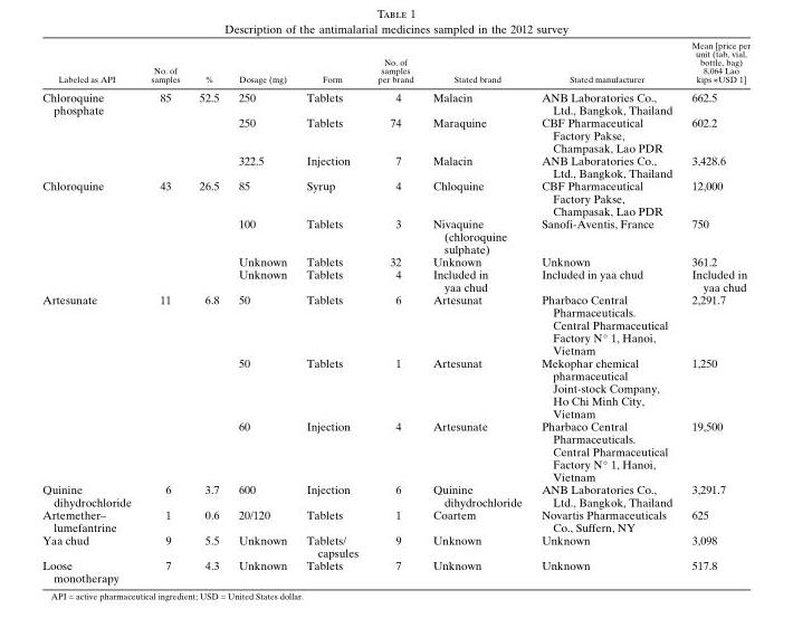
<table><thead><tr><td>Labeled as API</td><td>No. of samples</td><td>%</td><td>Dosage (mg)</td><td>Form</td><td>No. of samples per brand</td><td>Stated brand</td><td>Stated manufacturer</td><td>Mean [price per unit (tab, vial, bottle, bag) 8,064 Lao kips ≈USD 1]</td></tr></thead><tbody><tr><td rowspan="3">Chloroquine phosphate</td><td rowspan="3">85</td><td rowspan="3">52.5</td><td>250</td><td>Tablets</td><td>4</td><td>Malacin</td><td>ANB Laboratories Co., Ltd., Bangkok, Thailand</td><td>662.5</td></tr><tr><td>250</td><td>Tablets</td><td>74</td><td>Maraquine</td><td>CBF Pharmaceutical Factory Pakse, Champasak, Lao PDR</td><td>602.2</td></tr><tr><td>322.5</td><td>Injection</td><td>7</td><td>Malacin</td><td>ANB Laboratories Co., Ltd., Bangkok, Thailand</td><td>3,428.6</td></tr><tr><td rowspan="4">Chloroquine</td><td rowspan="4">43</td><td rowspan="4">26.5</td><td>85</td><td>Syrup</td><td>4</td><td>Chloquine</td><td>CBF Pharmaceutical Factory Pakse, Champasak, Lao PDR</td><td>12,000</td></tr><tr><td>100</td><td>Tablets</td><td>3</td><td>Nivaquine (chloroquine sulphate)</td><td>Sanofi-Aventis, France</td><td>750</td></tr><tr><td>Unknown</td><td>Tablets</td><td>32</td><td>Unknown</td><td>Unknown</td><td>361.2</td></tr><tr><td>Unknown</td><td>Tablets</td><td>4</td><td>Included in yaa chud</td><td>Included in yaa chud</td><td>Included in yaa chud</td></tr><tr><td rowspan="3">Artesunate</td><td rowspan="3">11</td><td rowspan="3">6.8</td><td>50</td><td>Tablets</td><td>6</td><td>Artesunat</td><td>Pharbaco Central Pharmaceuticals. Central Pharmaceutical Factory N° 1, Hanoi, Vietnam</td><td>2,291.7</td></tr><tr><td>50</td><td>Tablets</td><td>1</td><td>Artesunat</td><td>Mekophar chemical pharmaceutical Joint-stock Company, Ho Chi Minh City, Vietnam</td><td>1,250</td></tr><tr><td>60</td><td>Injection</td><td>4</td><td>Artesunate</td><td>Pharbaco Central Pharmaceuticals. Central Pharmaceutical Factory N° 1, Hanoi, Vietnam</td><td>19,500</td></tr><tr><td>Quinine dihydrochloride</td><td>6</td><td>3.7</td><td>600</td><td>Injection</td><td>6</td><td>Quinine dihydrochloride</td><td>ANB Laboratories Co., Ltd., Bangkok, Thailand</td><td>3,291.7</td></tr><tr><td>Artemether– lumefantrine</td><td>1</td><td>0.6</td><td>20/120</td><td>Tablets</td><td>1</td><td>Coartem</td><td>Novartis Pharmaceuticals Co., Suffern, NY</td><td>625</td></tr><tr><td>Yaa chud</td><td>9</td><td>5.5</td><td>Unknown</td><td>Tablets/ capsules</td><td>9</td><td>Unknown</td><td>Unknown</td><td>3,098</td></tr><tr><td>Loose monotherapy</td><td>7</td><td>4.3</td><td>Unknown</td><td>Tablets</td><td>7</td><td>Unknown</td><td>Unknown</td><td>517.8</td></tr></tbody></table>